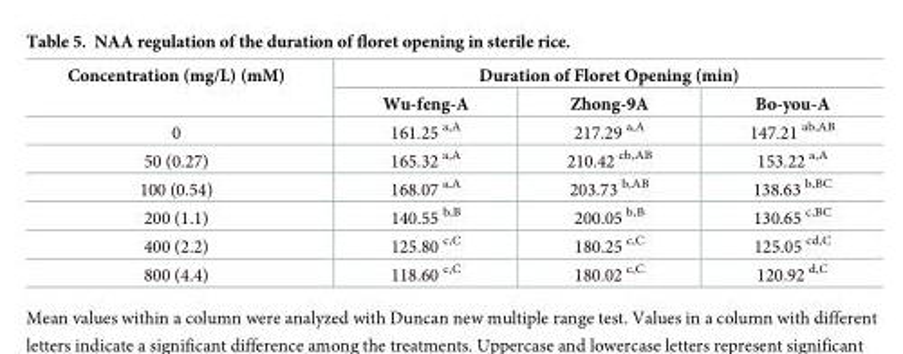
<table><thead><tr><td rowspan="2">Concentration (mg/L) (mM)</td><td colspan="3">Duration of Floret Opening (min)</td></tr><tr><td>Wu-feng-A</td><td>Zhong-9A</td><td>Bo-you-A</td></tr></thead><tbody><tr><td>0</td><td>161.25 <sup>a,A</sup></td><td>217.29 <sup>a,A</sup></td><td>147.21 <sup>ab,AB</sup></td></tr><tr><td>50 (0.27)</td><td>165.32 <sup>a,A</sup></td><td>210.42 <sup>cb,AB</sup></td><td>153.22 <sup>a,A</sup></td></tr><tr><td>100 (0.54)</td><td>168.07 <sup>a,A</sup></td><td>203.73 <sup>b,AB</sup></td><td>138.63 <sup>b,BC</sup></td></tr><tr><td>200 (1.1)</td><td>140.55 <sup>b,B</sup></td><td>200.05 <sup>b,B</sup></td><td>130.65 <sup>c,BC</sup></td></tr><tr><td>400 (2.2)</td><td>125.80 <sup>c,C</sup></td><td>180.25 <sup>c,C</sup></td><td>125.05 <sup>cd,C</sup></td></tr><tr><td>800 (4.4)</td><td>118.60 <sup>c,C</sup></td><td>180.02 <sup>c,C</sup></td><td>120.92 <sup>d,C</sup></td></tr></tbody></table>